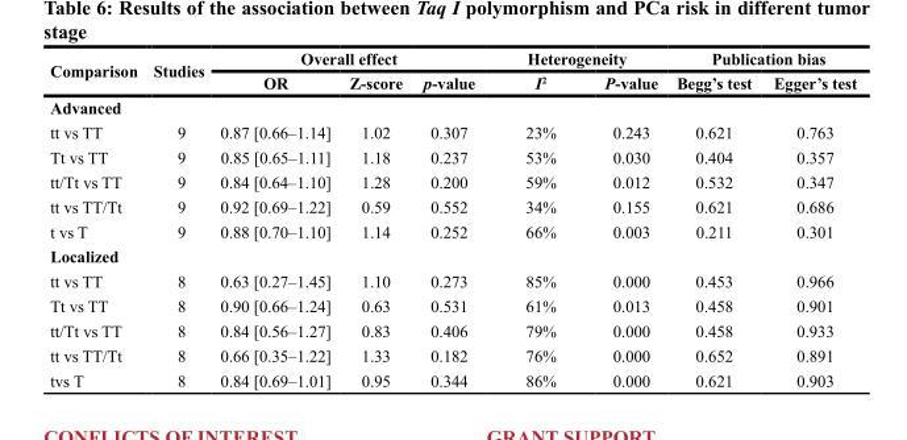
<table><thead><tr><td rowspan="2">Comparison</td><td rowspan="2">Studies</td><td colspan="3">Overall effect</td><td colspan="2">Heterogeneity</td><td colspan="2">Publication bias</td></tr><tr><td>OR</td><td>Z-score</td><td>p-value</td><td>I<sup>2</sup></td><td>P-value</td><td>Begg’s test</td><td>Egger’s test</td></tr></thead><tbody><tr><td colspan="9">Advanced</td></tr><tr><td>tt vs TT</td><td>9</td><td>0.87 [0.66–1.14]</td><td>1.02</td><td>0.307</td><td>23%</td><td>0.243</td><td>0.621</td><td>0.763</td></tr><tr><td>Tt vs TT</td><td>9</td><td>0.85 [0.65–1.11]</td><td>1.18</td><td>0.237</td><td>53%</td><td>0.030</td><td>0.404</td><td>0.357</td></tr><tr><td>tt/Tt vs TT</td><td>9</td><td>0.84 [0.64–1.10]</td><td>1.28</td><td>0.200</td><td>59%</td><td>0.012</td><td>0.532</td><td>0.347</td></tr><tr><td>tt vs TT/Tt</td><td>9</td><td>0.92 [0.69–1.22]</td><td>0.59</td><td>0.552</td><td>34%</td><td>0.155</td><td>0.621</td><td>0.686</td></tr><tr><td>t vs T</td><td>9</td><td>0.88 [0.70–1.10]</td><td>1.14</td><td>0.252</td><td>66%</td><td>0.003</td><td>0.211</td><td>0.301</td></tr><tr><td colspan="9">Localized</td></tr><tr><td>tt vs TT</td><td>8</td><td>0.63 [0.27–1.45]</td><td>1.10</td><td>0.273</td><td>85%</td><td>0.000</td><td>0.453</td><td>0.966</td></tr><tr><td>Tt vs TT</td><td>8</td><td>0.90 [0.66–1.24]</td><td>0.63</td><td>0.531</td><td>61%</td><td>0.013</td><td>0.458</td><td>0.901</td></tr><tr><td>tt/Tt vs TT</td><td>8</td><td>0.84 [0.56–1.27]</td><td>0.83</td><td>0.406</td><td>79%</td><td>0.000</td><td>0.458</td><td>0.933</td></tr><tr><td>tt vs TT/Tt</td><td>8</td><td>0.66 [0.35–1.22]</td><td>1.33</td><td>0.182</td><td>76%</td><td>0.000</td><td>0.652</td><td>0.891</td></tr><tr><td>tvs T</td><td>8</td><td>0.84 [0.69–1.01]</td><td>0.95</td><td>0.344</td><td>86%</td><td>0.000</td><td>0.621</td><td>0.903</td></tr></tbody></table>